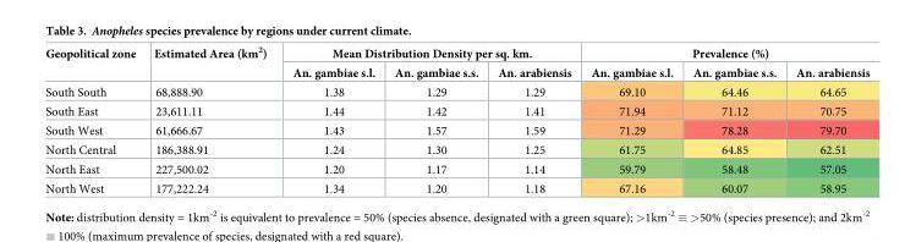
<table><thead><tr><td rowspan="2">Geopolitical zone</td><td rowspan="2">Estimated Area (km<sup>2</sup>)</td><td colspan="3">Mean Distribution Density per sq. km.</td><td colspan="3">Prevalence (%)</td></tr><tr><td>An. gambiae s.l.</td><td>An. gambiae s.s.</td><td>An. arabiensis</td><td>An. gambiae s.l.</td><td>An. gambiae s.s.</td><td>An. arabiensis</td></tr></thead><tbody><tr><td>South South</td><td>68,888.90</td><td>1.38</td><td>1.29</td><td>1.29</td><td>69.10</td><td>64.46</td><td>64.65</td></tr><tr><td>South East</td><td>23,611.11</td><td>1.44</td><td>1.42</td><td>1.41</td><td>71.94</td><td>71.12</td><td>70.75</td></tr><tr><td>South West</td><td>61,666.67</td><td>1.43</td><td>1.57</td><td>1.59</td><td>71.29</td><td>78.28</td><td>79.70</td></tr><tr><td>North Central</td><td>186,388.91</td><td>1.24</td><td>1.30</td><td>1.25</td><td>61.75</td><td>64.85</td><td>62.51</td></tr><tr><td>North East</td><td>227,500.02</td><td>1.20</td><td>1.17</td><td>1.14</td><td>59.79</td><td>58.48</td><td>57.05</td></tr><tr><td>North West</td><td>177,222.24</td><td>1.34</td><td>1.20</td><td>1.18</td><td>67.16</td><td>60.07</td><td>58.95</td></tr></tbody></table>